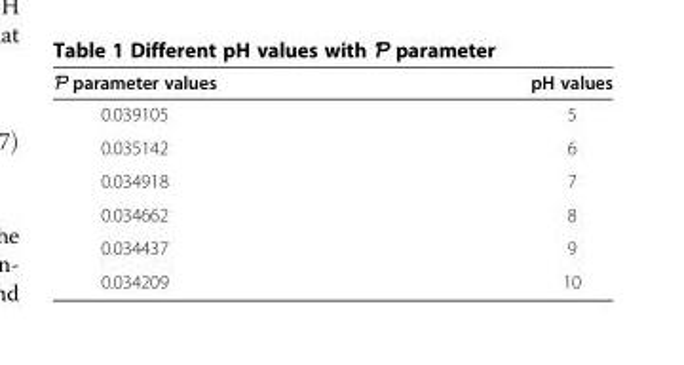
<table><thead><tr><td>parameter values</td><td>pH values</td></tr></thead><tbody><tr><td>0.039105</td><td>5</td></tr><tr><td>0.035142</td><td>6</td></tr><tr><td>0.034918</td><td>7</td></tr><tr><td>0.034662</td><td>8</td></tr><tr><td>0.034437</td><td>9</td></tr><tr><td>0.034209</td><td>10</td></tr></tbody></table>